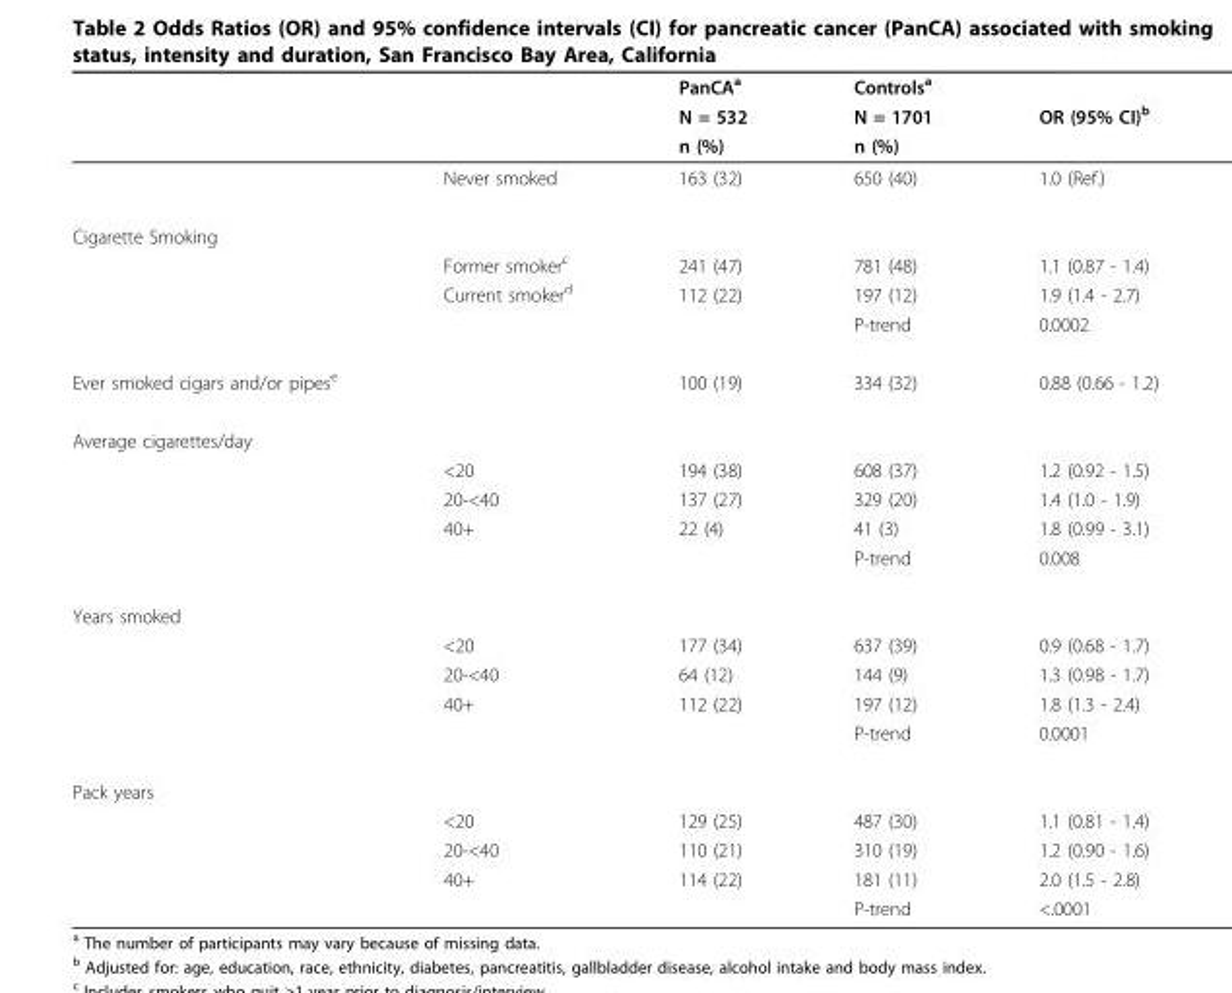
<table><thead><tr><td rowspan="3"></td><td rowspan="3"></td><td rowspan="3">PanCA<sup>a</sup> N = 532 n (%)</td><td rowspan="3">Controls<sup>a</sup> N = 1701 n (%)</td><td rowspan="3">OR (95% CI)<sup>b</sup></td></tr><tr></tr><tr></tr></thead><tbody><tr><td></td><td>Never smoked</td><td>163 (32)</td><td>650 (40)</td><td>1.0 (Ref.)</td></tr><tr><td colspan="5">Cigarette Smoking</td></tr><tr><td></td><td>Former smoker<sup>c</sup></td><td>241 (47)</td><td>781 (48)</td><td>1.1 (0.87 - 1.4)</td></tr><tr><td></td><td>Current smoker<sup>d</sup></td><td>112 (22)</td><td>197 (12)</td><td>1.9 (1.4 - 2.7)</td></tr><tr><td></td><td></td><td></td><td>P-trend</td><td>0.0002</td></tr><tr><td>Ever smoked cigars and/or pipes<sup>e</sup></td><td></td><td>100 (19)</td><td>334 (32)</td><td>0.88 (0.66 - 1.2)</td></tr><tr><td colspan="5">Average cigarettes/day</td></tr><tr><td></td><td>&lt;20</td><td>194 (38)</td><td>608 (37)</td><td>1.2 (0.92 - 1.5)</td></tr><tr><td></td><td>20-&lt;40</td><td>137 (27)</td><td>329 (20)</td><td>1.4 (1.0 - 1.9)</td></tr><tr><td></td><td>40+</td><td>22 (4)</td><td>41 (3)</td><td>1.8 (0.99 - 3.1)</td></tr><tr><td></td><td></td><td></td><td>P-trend</td><td>0.008</td></tr><tr><td colspan="5">Years smoked</td></tr><tr><td></td><td>&lt;20</td><td>177 (34)</td><td>637 (39)</td><td>0.9 (0.68 - 1.7)</td></tr><tr><td></td><td>20-&lt;40</td><td>64 (12)</td><td>144 (9)</td><td>1.3 (0.98 - 1.7)</td></tr><tr><td></td><td>40+</td><td>112 (22)</td><td>197 (12)</td><td>1.8 (1.3 - 2.4)</td></tr><tr><td></td><td></td><td></td><td>P-trend</td><td>0.0001</td></tr><tr><td colspan="5">Pack years</td></tr><tr><td></td><td>&lt;20</td><td>129 (25)</td><td>487 (30)</td><td>1.1 (0.81 - 1.4)</td></tr><tr><td></td><td>20-&lt;40</td><td>110 (21)</td><td>310 (19)</td><td>1.2 (0.90 - 1.6)</td></tr><tr><td></td><td>40+</td><td>114 (22)</td><td>181 (11)</td><td>2.0 (1.5 - 2.8)</td></tr><tr><td></td><td></td><td></td><td>P-trend</td><td>&lt;.0001</td></tr></tbody></table>